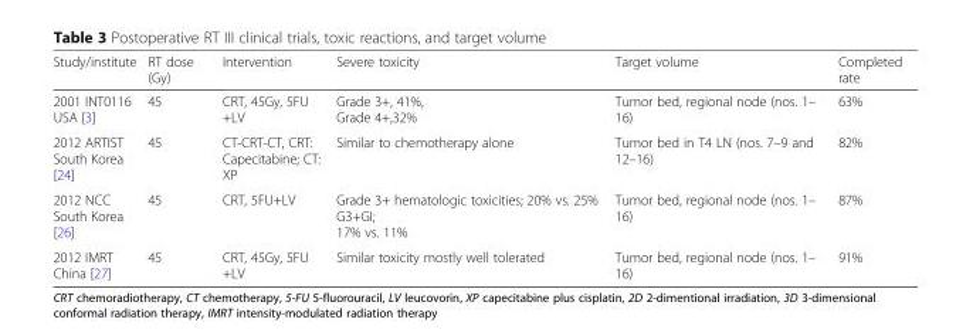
<table><thead><tr><td>Study/institute</td><td>RT dose (Gy)</td><td>Intervention</td><td>Severe toxicity</td><td>Target volume</td><td>Completed rate</td></tr></thead><tbody><tr><td>2001 INT0116 USA [3]</td><td>45</td><td>CRT, 45Gy, 5FU +LV</td><td>Grade 3+, 41%, Grade 4+,32%</td><td>Tumor bed, regional node (nos. 1– 16)</td><td>63%</td></tr><tr><td>2012 ARTIST South Korea [24]</td><td>45</td><td>CT-CRT-CT, CRT: Capecitabine; CT: XP</td><td>Similar to chemotherapy alone</td><td>Tumor bed in T4 LN (nos. 7–9 and 12–16)</td><td>82%</td></tr><tr><td>2012 NCC South Korea [26]</td><td>45</td><td>CRT, 5FU+LV</td><td>Grade 3+ hematologic toxicities; 20% vs. 25% G3+GI; 17% vs. 11%</td><td>Tumor bed, regional node (nos. 1– 16)</td><td>87%</td></tr><tr><td>2012 IMRT China [27]</td><td>45</td><td>CRT, 45Gy, 5FU +LV</td><td>Similar toxicity mostly well tolerated</td><td>Tumor bed, regional node (nos. 1– 16)</td><td>91%</td></tr></tbody></table>